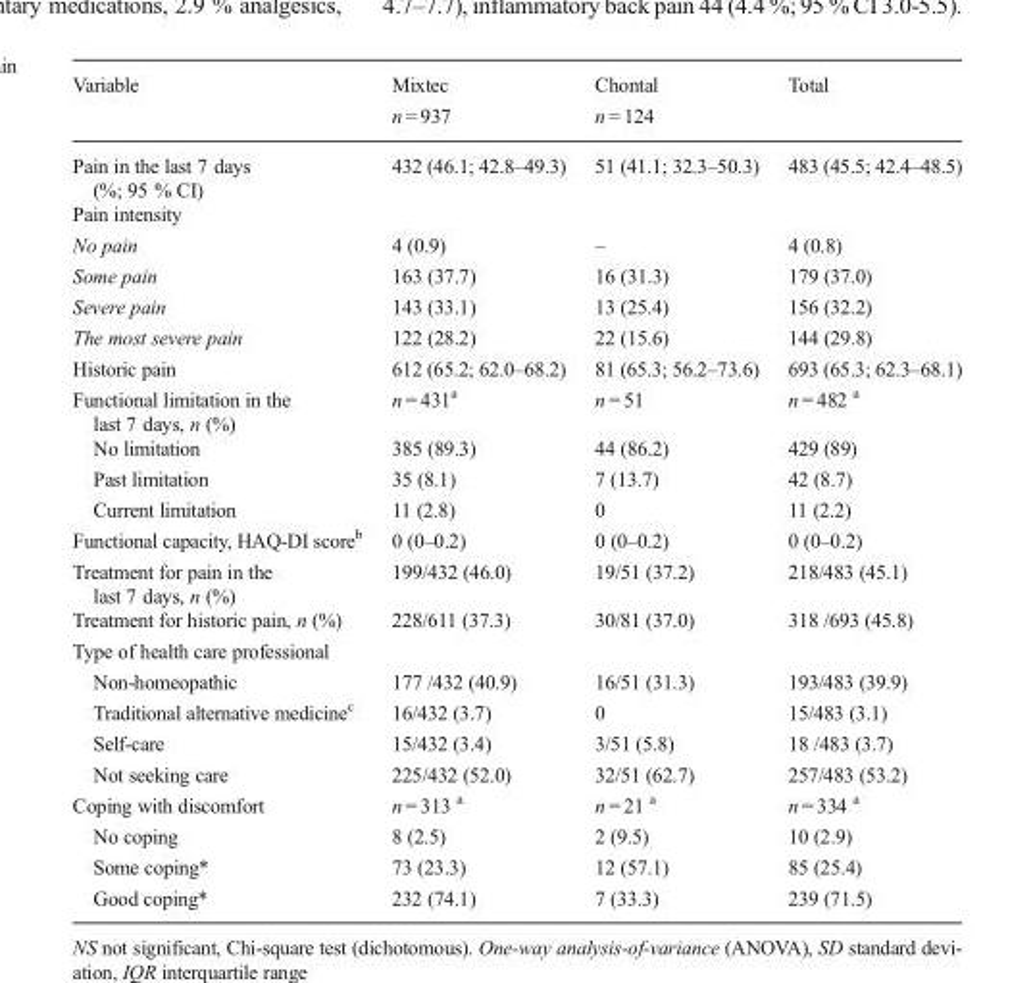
<table><thead><tr><td>Variable</td><td>Mixtec n = 937</td><td>Chontal n = 124</td><td>Total</td></tr></thead><tbody><tr><td>Pain in the last 7 days (%; 95 % CI)</td><td>432 (46.1; 42.8–49.3)</td><td>51 (41.1; 32.3–50.3)</td><td>483 (45.5; 42.4–48.5)</td></tr><tr><td colspan="4">Pain intensity</td></tr><tr><td>No pain</td><td>4 (0.9)</td><td>–</td><td>4 (0.8)</td></tr><tr><td>Some pain</td><td>163 (37.7)</td><td>16 (31.3)</td><td>179 (37.0)</td></tr><tr><td>Severe pain</td><td>143 (33.1)</td><td>13 (25.4)</td><td>156 (32.2)</td></tr><tr><td>The most severe pain</td><td>122 (28.2)</td><td>22 (15.6)</td><td>144 (29.8)</td></tr><tr><td>Historic pain</td><td>612 (65.2; 62.0–68.2)</td><td>81 (65.3; 56.2–73.6)</td><td>693 (65.3; 62.3–68.1)</td></tr><tr><td>Functional limitation in the last 7 days, n (%)</td><td>n = 431<sup>a</sup></td><td>n = 51</td><td>n = 482 <sup>a</sup></td></tr><tr><td>No limitation</td><td>385 (89.3)</td><td>44 (86.2)</td><td>429 (89)</td></tr><tr><td>Past limitation</td><td>35 (8.1)</td><td>7 (13.7)</td><td>42 (8.7)</td></tr><tr><td>Current limitation</td><td>11 (2.8)</td><td>0</td><td>11 (2.2)</td></tr><tr><td>Functional capacity, HAQ-DI score<sup>b</sup></td><td>0 (0–0.2)</td><td>0 (0–0.2)</td><td>0 (0–0.2)</td></tr><tr><td>Treatment for pain in the last 7 days, n (%)</td><td>199/432 (46.0)</td><td>19/51 (37.2)</td><td>218/483 (45.1)</td></tr><tr><td>Treatment for historic pain, n (%)</td><td>228/611 (37.3)</td><td>30/81 (37.0)</td><td>318 /693 (45.8)</td></tr><tr><td colspan="4">Type of health care professional</td></tr><tr><td>Non-homeopathic</td><td>177 /432 (40.9)</td><td>16/51 (31.3)</td><td>193/483 (39.9)</td></tr><tr><td>Traditional alternative medicine<sup>c</sup></td><td>16/432 (3.7)</td><td>0</td><td>15/483 (3.1)</td></tr><tr><td>Self-care</td><td>15/432 (3.4)</td><td>3/51 (5.8)</td><td>18 /483 (3.7)</td></tr><tr><td>Not seeking care</td><td>225/432 (52.0)</td><td>32/51 (62.7)</td><td>257/483 (53.2)</td></tr><tr><td>Coping with discomfort</td><td>n = 313 <sup>a</sup></td><td>n = 21 <sup>a</sup></td><td>n = 334 <sup>a</sup></td></tr><tr><td>No coping</td><td>8 (2.5)</td><td>2 (9.5)</td><td>10 (2.9)</td></tr><tr><td>Some coping*</td><td>73 (23.3)</td><td>12 (57.1)</td><td>85 (25.4)</td></tr><tr><td>Good coping*</td><td>232 (74.1)</td><td>7 (33.3)</td><td>239 (71.5)</td></tr></tbody></table>